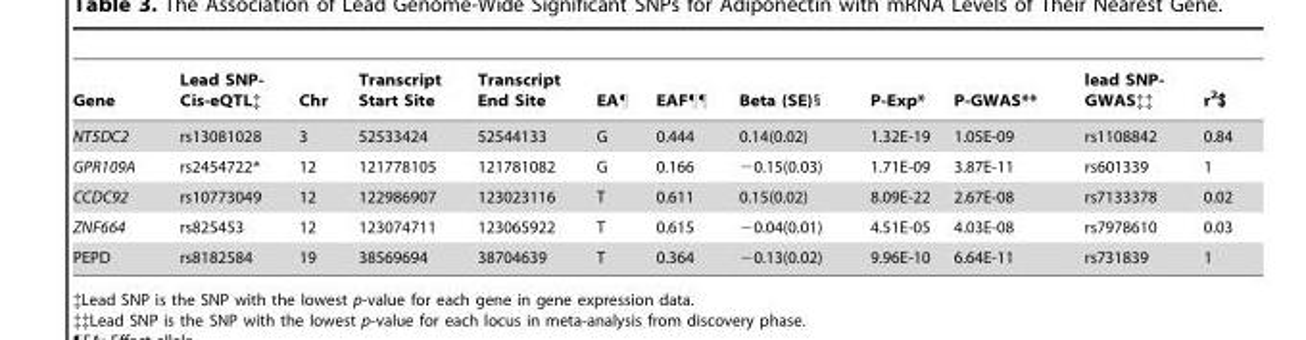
<table><thead><tr><td>Gene</td><td>Lead SNP- Cis-eQTL‡</td><td>Chr</td><td>Transcript Start Site</td><td>Transcript End Site</td><td>EA¶</td><td>EAF¶¶</td><td>Beta (SE)§</td><td>P-Exp*</td><td>P-GWAS**</td><td>lead SNP- GWAS‡‡</td><td>r<sup>2</sup>$</td></tr></thead><tbody><tr><td>NT5DC2</td><td>rs13081028</td><td>3</td><td>52533424</td><td>52544133</td><td>G</td><td>0.444</td><td>0.14(0.02)</td><td>1.32E-19</td><td>1.05E-09</td><td>rs1108842</td><td>0.84</td></tr><tr><td>GPR109A</td><td>rs2454722*</td><td>12</td><td>121778105</td><td>121781082</td><td>G</td><td>0.166</td><td>−0.15(0.03)</td><td>1.71E-09</td><td>3.87E-11</td><td>rs601339</td><td>1</td></tr><tr><td>CCDC92</td><td>rs10773049</td><td>12</td><td>122986907</td><td>123023116</td><td>T</td><td>0.611</td><td>0.15(0.02)</td><td>8.09E-22</td><td>2.67E-08</td><td>rs7133378</td><td>0.02</td></tr><tr><td>ZNF664</td><td>rs825453</td><td>12</td><td>123074711</td><td>123065922</td><td>T</td><td>0.615</td><td>−0.04(0.01)</td><td>4.51E-05</td><td>4.03E-08</td><td>rs7978610</td><td>0.03</td></tr><tr><td>PEPD</td><td>rs8182584</td><td>19</td><td>38569694</td><td>38704639</td><td>T</td><td>0.364</td><td>−0.13(0.02)</td><td>9.96E-10</td><td>6.64E-11</td><td>rs731839</td><td>1</td></tr></tbody></table>